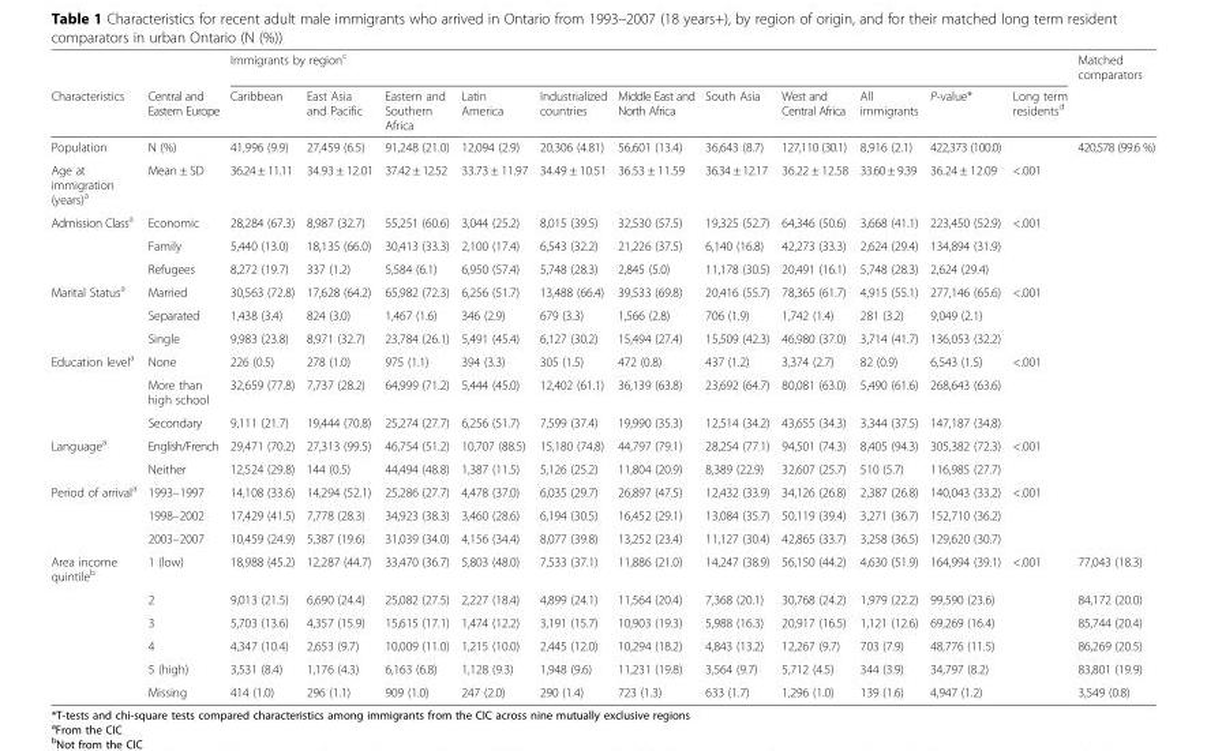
<table><thead><tr><td rowspan="2">Characteristics</td><td rowspan="2">Central and Eastern Europe</td><td colspan="11">Immigrants by region<sup>c</sup></td><td rowspan="2">Matched comparators</td></tr><tr><td>Caribbean</td><td>East Asia and Pacific</td><td>Eastern and Southern Africa</td><td>Latin America</td><td>Industrialized countries</td><td>Middle East and North Africa</td><td>South Asia</td><td>West and Central Africa</td><td>All immigrants</td><td>P-value*</td><td>Long term residents<sup>d</sup></td></tr></thead><tbody><tr><td>Population</td><td>N (%)</td><td>41,996 (9.9)</td><td>27,459 (6.5)</td><td>91,248 (21.0)</td><td>12,094 (2.9)</td><td>20,306 (4.81)</td><td>56,601 (13.4)</td><td>36,643 (8.7)</td><td>127,110 (30.1)</td><td>8,916 (2.1)</td><td>422,373 (100.0)</td><td></td><td>420,578 (99.6 %)</td></tr><tr><td>Age at immigration (years)<sup>a</sup></td><td>Mean ± SD</td><td>36.24 ± 11.11</td><td>34.93 ± 12.01</td><td>37.42 ± 12.52</td><td>33.73 ± 11.97</td><td>34.49 ± 10.51</td><td>36.53 ± 11.59</td><td>36.34 ± 12.17</td><td>36.22 ± 12.58</td><td>33.60 ± 9.39</td><td>36.24 ± 12.09</td><td>&lt;.001</td><td></td></tr><tr><td rowspan="3">Admission Class<sup>a</sup></td><td>Economic</td><td>28,284 (67.3)</td><td>8,987 (32.7)</td><td>55,251 (60.6)</td><td>3,044 (25.2)</td><td>8,015 (39.5)</td><td>32,530 (57.5)</td><td>19,325 (52.7)</td><td>64,346 (50.6)</td><td>3,668 (41.1)</td><td>223,450 (52.9)</td><td>&lt;.001</td><td></td></tr><tr><td>Family</td><td>5,440 (13.0)</td><td>18,135 (66.0)</td><td>30,413 (33.3)</td><td>2,100 (17.4)</td><td>6,543 (32.2)</td><td>21,226 (37.5)</td><td>6,140 (16.8)</td><td>42,273 (33.3)</td><td>2,624 (29.4)</td><td>134,894 (31.9)</td><td></td><td></td></tr><tr><td>Refugees</td><td>8,272 (19.7)</td><td>337 (1.2)</td><td>5,584 (6.1)</td><td>6,950 (57.4)</td><td>5,748 (28.3)</td><td>2,845 (5.0)</td><td>11,178 (30.5)</td><td>20,491 (16.1)</td><td>5,748 (28.3)</td><td>2,624 (29.4)</td><td></td><td></td></tr><tr><td rowspan="3">Marital Status<sup>a</sup></td><td>Married</td><td>30,563 (72.8)</td><td>17,628 (64.2)</td><td>65,982 (72.3)</td><td>6,256 (51.7)</td><td>13,488 (66.4)</td><td>39,533 (69.8)</td><td>20,416 (55.7)</td><td>78,365 (61.7)</td><td>4,915 (55.1)</td><td>277,146 (65.6)</td><td>&lt;.001</td><td></td></tr><tr><td>Separated</td><td>1,438 (3.4)</td><td>824 (3.0)</td><td>1,467 (1.6)</td><td>346 (2.9)</td><td>679 (3.3)</td><td>1,566 (2.8)</td><td>706 (1.9)</td><td>1,742 (1.4)</td><td>281 (3.2)</td><td>9,049 (2.1)</td><td></td><td></td></tr><tr><td>Single</td><td>9,983 (23.8)</td><td>8,971 (32.7)</td><td>23,784 (26.1)</td><td>5,491 (45.4)</td><td>6,127 (30.2)</td><td>15,494 (27.4)</td><td>15,509 (42.3)</td><td>46,980 (37.0)</td><td>3,714 (41.7)</td><td>136,053 (32.2)</td><td></td><td></td></tr><tr><td rowspan="3">Education level<sup>a</sup></td><td>None</td><td>226 (0.5)</td><td>278 (1.0)</td><td>975 (1.1)</td><td>394 (3.3)</td><td>305 (1.5)</td><td>472 (0.8)</td><td>437 (1.2)</td><td>3,374 (2.7)</td><td>82 (0.9)</td><td>6,543 (1.5)</td><td>&lt;.001</td><td></td></tr><tr><td>More than high school</td><td>32,659 (77.8)</td><td>7,737 (28.2)</td><td>64,999 (71.2)</td><td>5,444 (45.0)</td><td>12,402 (61.1)</td><td>36,139 (63.8)</td><td>23,692 (64.7)</td><td>80,081 (63.0)</td><td>5,490 (61.6)</td><td>268,643 (63.6)</td><td></td><td></td></tr><tr><td>Secondary</td><td>9,111 (21.7)</td><td>19,444 (70.8)</td><td>25,274 (27.7)</td><td>6,256 (51.7)</td><td>7,599 (37.4)</td><td>19,990 (35.3)</td><td>12,514 (34.2)</td><td>43,655 (34.3)</td><td>3,344 (37.5)</td><td>147,187 (34.8)</td><td></td><td></td></tr><tr><td rowspan="2">Language<sup>a</sup></td><td>English/French</td><td>29,471 (70.2)</td><td>27,313 (99.5)</td><td>46,754 (51.2)</td><td>10,707 (88.5)</td><td>15,180 (74.8)</td><td>44,797 (79.1)</td><td>28,254 (77.1)</td><td>94,501 (74.3)</td><td>8,405 (94.3)</td><td>305,382 (72.3)</td><td>&lt;.001</td><td></td></tr><tr><td>Neither</td><td>12,524 (29.8)</td><td>144 (0.5)</td><td>44,494 (48.8)</td><td>1,387 (11.5)</td><td>5,126 (25.2)</td><td>11,804 (20.9)</td><td>8,389 (22.9)</td><td>32,607 (25.7)</td><td>510 (5.7)</td><td>116,985 (27.7)</td><td></td><td></td></tr><tr><td rowspan="3">Period of arrival<sup>a</sup></td><td>1993–1997</td><td>14,108 (33.6)</td><td>14,294 (52.1)</td><td>25,286 (27.7)</td><td>4,478 (37.0)</td><td>6,035 (29.7)</td><td>26,897 (47.5)</td><td>12,432 (33.9)</td><td>34,126 (26.8)</td><td>2,387 (26.8)</td><td>140,043 (33.2)</td><td>&lt;.001</td><td></td></tr><tr><td>1998–2002</td><td>17,429 (41.5)</td><td>7,778 (28.3)</td><td>34,923 (38.3)</td><td>3,460 (28.6)</td><td>6,194 (30.5)</td><td>16,452 (29.1)</td><td>13,084 (35.7)</td><td>50,119 (39.4)</td><td>3,271 (36.7)</td><td>152,710 (36.2)</td><td></td><td></td></tr><tr><td>2003–2007</td><td>10,459 (24.9)</td><td>5,387 (19.6)</td><td>31,039 (34.0)</td><td>4,156 (34.4)</td><td>8,077 (39.8)</td><td>13,252 (23.4)</td><td>11,127 (30.4)</td><td>42,865 (33.7)</td><td>3,258 (36.5)</td><td>129,620 (30.7)</td><td></td><td></td></tr><tr><td rowspan="6">Area income quintile<sup>b</sup></td><td>1 (low)</td><td>18,988 (45.2)</td><td>12,287 (44.7)</td><td>33,470 (36.7)</td><td>5,803 (48.0)</td><td>7,533 (37.1)</td><td>11,886 (21.0)</td><td>14,247 (38.9)</td><td>56,150 (44.2)</td><td>4,630 (51.9)</td><td>164,994 (39.1)</td><td>&lt;.001</td><td>77,043 (18.3)</td></tr><tr><td>2</td><td>9,013 (21.5)</td><td>6,690 (24.4)</td><td>25,082 (27.5)</td><td>2,227 (18.4)</td><td>4,899 (24.1)</td><td>11,564 (20.4)</td><td>7,368 (20.1)</td><td>30,768 (24.2)</td><td>1,979 (22.2)</td><td>99,590 (23.6)</td><td></td><td>84,172 (20.0)</td></tr><tr><td>3</td><td>5,703 (13.6)</td><td>4,357 (15.9)</td><td>15,615 (17.1)</td><td>1,474 (12.2)</td><td>3,191 (15.7)</td><td>10,903 (19.3)</td><td>5,988 (16.3)</td><td>20,917 (16.5)</td><td>1,121 (12.6)</td><td>69,269 (16.4)</td><td></td><td>85,744 (20.4)</td></tr><tr><td>4</td><td>4,347 (10.4)</td><td>2,653 (9.7)</td><td>10,009 (11.0)</td><td>1,215 (10.0)</td><td>2,445 (12.0)</td><td>10,294 (18.2)</td><td>4,843 (13.2)</td><td>12,267 (9.7)</td><td>703 (7.9)</td><td>48,776 (11.5)</td><td></td><td>86,269 (20.5)</td></tr><tr><td>5 (high)</td><td>3,531 (8.4)</td><td>1,176 (4.3)</td><td>6,163 (6.8)</td><td>1,128 (9.3)</td><td>1,948 (9.6)</td><td>11,231 (19.8)</td><td>3,564 (9.7)</td><td>5,712 (4.5)</td><td>344 (3.9)</td><td>34,797 (8.2)</td><td></td><td>83,801 (19.9)</td></tr><tr><td>Missing</td><td>414 (1.0)</td><td>296 (1.1)</td><td>909 (1.0)</td><td>247 (2.0)</td><td>290 (1.4)</td><td>723 (1.3)</td><td>633 (1.7)</td><td>1,296 (1.0)</td><td>139 (1.6)</td><td>4,947 (1.2)</td><td></td><td>3,549 (0.8)</td></tr></tbody></table>